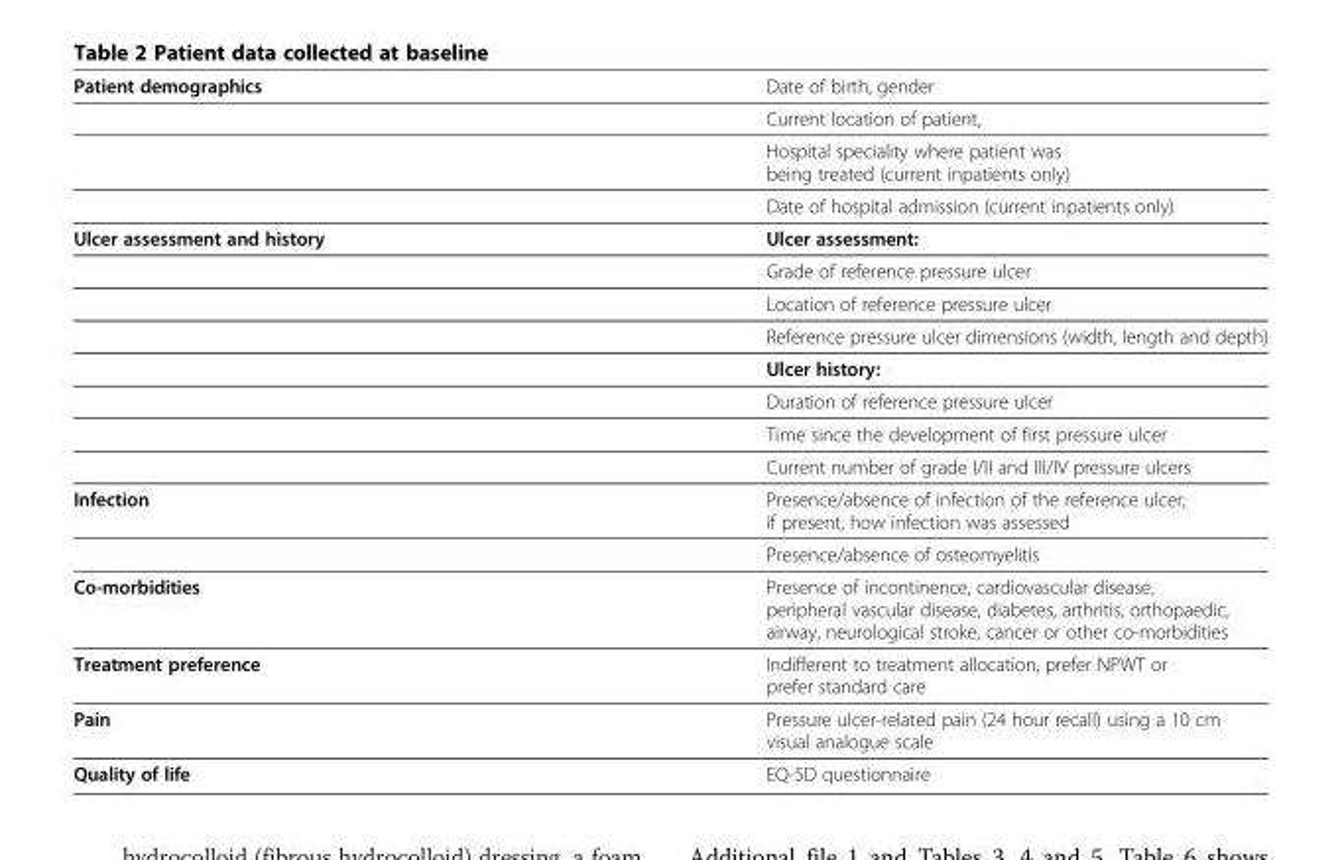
<table><thead><tr><td>Patient demographics</td><td>Date of birth, gender</td></tr></thead><tbody><tr><td></td><td>Current location of patient,</td></tr><tr><td></td><td>Hospital speciality where patient was being treated (current inpatients only)</td></tr><tr><td></td><td>Date of hospital admission (current inpatients only)</td></tr><tr><td rowspan="8">Ulcer assessment and history</td><td>Ulcer assessment:</td></tr><tr><td>Grade of reference pressure ulcer</td></tr><tr><td>Location of reference pressure ulcer</td></tr><tr><td>Reference pressure ulcer dimensions (width, length and depth)</td></tr><tr><td>Ulcer history:</td></tr><tr><td>Duration of reference pressure ulcer</td></tr><tr><td>Time since the development of first pressure ulcer</td></tr><tr><td>Current number of grade I/II and III/IV pressure ulcers</td></tr><tr><td rowspan="2">Infection</td><td>Presence/absence of infection of the reference ulcer; if present, how infection was assessed</td></tr><tr><td>Presence/absence of osteomyelitis</td></tr><tr><td>Co-morbidities</td><td>Presence of incontinence, cardiovascular disease, peripheral vascular disease, diabetes, arthritis, orthopaedic, airway, neurological stroke, cancer or other co-morbidities</td></tr><tr><td>Treatment preference</td><td>Indifferent to treatment allocation, prefer NPWT or prefer standard care</td></tr><tr><td>Pain</td><td>Pressure ulcer-related pain (24 hour recall) using a 10 cm visual analogue scale</td></tr><tr><td>Quality of life</td><td>EQ-5D questionnaire</td></tr></tbody></table>